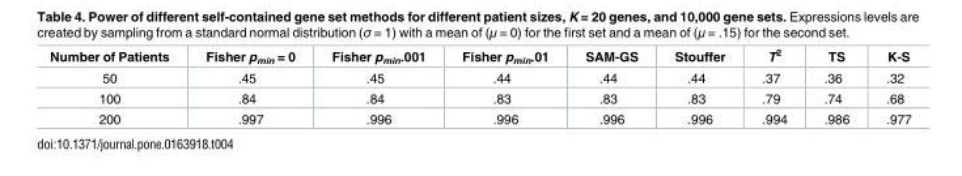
<table><thead><tr><td>Number of Patients</td><td>Fisher p<sub>min</sub> = 0</td><td>Fisher p<sub>min</sub>.001</td><td>Fisher p<sub>min</sub>.01</td><td>SAM-GS</td><td>Stouffer</td><td>T<sup>2</sup></td><td>TS</td><td>K-S</td></tr></thead><tbody><tr><td>50</td><td>.45</td><td>.45</td><td>.44</td><td>.44</td><td>.44</td><td>.37</td><td>.36</td><td>.32</td></tr><tr><td>100</td><td>.84</td><td>.84</td><td>.83</td><td>.83</td><td>.83</td><td>.79</td><td>.74</td><td>.68</td></tr><tr><td>200</td><td>.997</td><td>.996</td><td>.996</td><td>.996</td><td>.996</td><td>.994</td><td>.986</td><td>.977</td></tr></tbody></table>